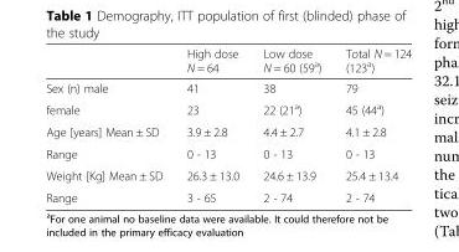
<table><thead><tr><td></td><td>High dose N = 64</td><td>Low dose N = 60 (59<sup>a</sup>)</td><td>Total N = 124 (123<sup>a</sup>)</td></tr></thead><tbody><tr><td>Sex (n) male</td><td>41</td><td>38</td><td>79</td></tr><tr><td>female</td><td>23</td><td>22 (21<sup>a</sup>)</td><td>45 (44<sup>a</sup>)</td></tr><tr><td>Age [years] Mean ± SD</td><td>3.9 ± 2.8</td><td>4.4 ± 2.7</td><td>4.1 ± 2.8</td></tr><tr><td>Range</td><td>0 - 13</td><td>0 - 13</td><td>0 - 13</td></tr><tr><td>Weight [Kg] Mean ± SD</td><td>26.3 ± 13.0</td><td>24.6 ± 13.9</td><td>25.4 ± 13.4</td></tr><tr><td>Range</td><td>3 - 65</td><td>2 - 74</td><td>2 - 74</td></tr></tbody></table>